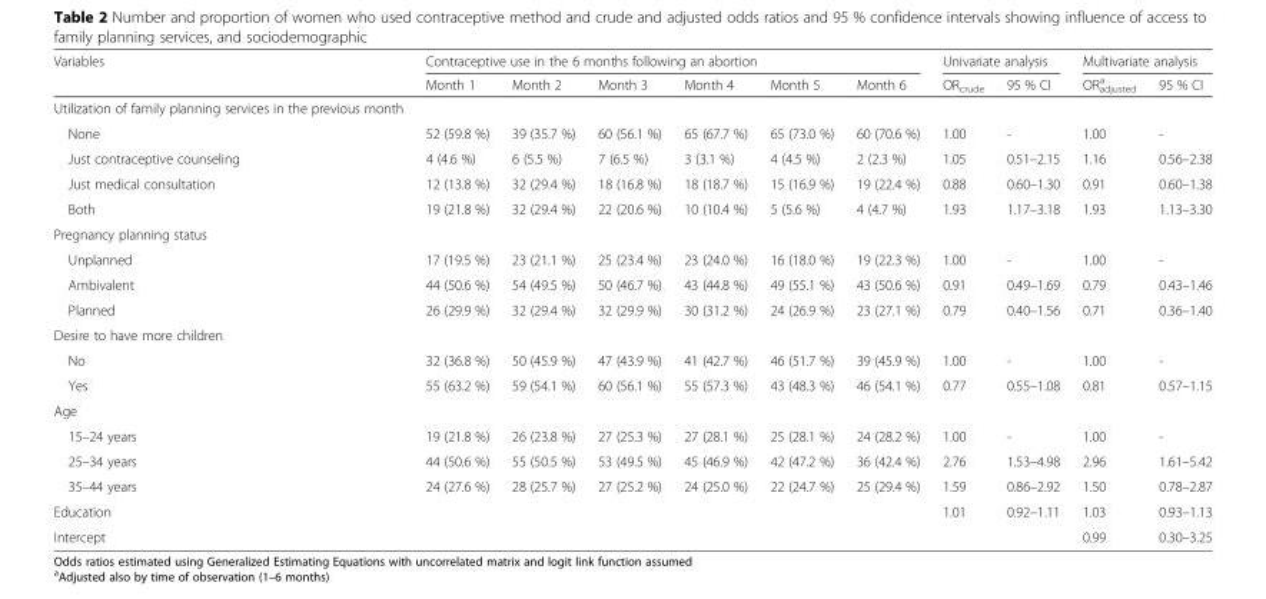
<table><thead><tr><td rowspan="2">Variables</td><td colspan="6">Contraceptive use in the 6 months following an abortion</td><td colspan="2">Univariate analysis</td><td colspan="2">Multivariate analysis</td></tr><tr><td>Month 1</td><td>Month 2</td><td>Month 3</td><td>Month 4</td><td>Month 5</td><td>Month 6</td><td>OR<sub>crude</sub></td><td>95 % CI</td><td>OR<sub>adjusted</sub> <sup>a</sup></td><td>95 % CI</td></tr></thead><tbody><tr><td colspan="11">Utilization of family planning services in the previous month</td></tr><tr><td>None</td><td>52 (59.8 %)</td><td>39 (35.7 %)</td><td>60 (56.1 %)</td><td>65 (67.7 %)</td><td>65 (73.0 %)</td><td>60 (70.6 %)</td><td>1.00</td><td>-</td><td>1.00</td><td>-</td></tr><tr><td>Just contraceptive counseling</td><td>4 (4.6 %)</td><td>6 (5.5 %)</td><td>7 (6.5 %)</td><td>3 (3.1 %)</td><td>4 (4.5 %)</td><td>2 (2.3 %)</td><td>1.05</td><td>0.51–2.15</td><td>1.16</td><td>0.56–2.38</td></tr><tr><td>Just medical consultation</td><td>12 (13.8 %)</td><td>32 (29.4 %)</td><td>18 (16.8 %)</td><td>18 (18.7 %)</td><td>15 (16.9 %)</td><td>19 (22.4 %)</td><td>0.88</td><td>0.60–1.30</td><td>0.91</td><td>0.60–1.38</td></tr><tr><td>Both</td><td>19 (21.8 %)</td><td>32 (29.4 %)</td><td>22 (20.6 %)</td><td>10 (10.4 %)</td><td>5 (5.6 %)</td><td>4 (4.7 %)</td><td>1.93</td><td>1.17–3.18</td><td>1.93</td><td>1.13–3.30</td></tr><tr><td colspan="11">Pregnancy planning status</td></tr><tr><td>Unplanned</td><td>17 (19.5 %)</td><td>23 (21.1 %)</td><td>25 (23.4 %)</td><td>23 (24.0 %)</td><td>16 (18.0 %)</td><td>19 (22.3 %)</td><td>1.00</td><td>-</td><td>1.00</td><td>-</td></tr><tr><td>Ambivalent</td><td>44 (50.6 %)</td><td>54 (49.5 %)</td><td>50 (46.7 %)</td><td>43 (44.8 %)</td><td>49 (55.1 %)</td><td>43 (50.6 %)</td><td>0.91</td><td>0.49–1.69</td><td>0.79</td><td>0.43–1.46</td></tr><tr><td>Planned</td><td>26 (29.9 %)</td><td>32 (29.4 %)</td><td>32 (29.9 %)</td><td>30 (31.2 %)</td><td>24 (26.9 %)</td><td>23 (27.1 %)</td><td>0.79</td><td>0.40–1.56</td><td>0.71</td><td>0.36–1.40</td></tr><tr><td colspan="11">Desire to have more children</td></tr><tr><td>No</td><td>32 (36.8 %)</td><td>50 (45.9 %)</td><td>47 (43.9 %)</td><td>41 (42.7 %)</td><td>46 (51.7 %)</td><td>39 (45.9 %)</td><td>1.00</td><td>-</td><td>1.00</td><td>-</td></tr><tr><td>Yes</td><td>55 (63.2 %)</td><td>59 (54.1 %)</td><td>60 (56.1 %)</td><td>55 (57.3 %)</td><td>43 (48.3 %)</td><td>46 (54.1 %)</td><td>0.77</td><td>0.55–1.08</td><td>0.81</td><td>0.57–1.15</td></tr><tr><td colspan="11">Age</td></tr><tr><td>15–24 years</td><td>19 (21.8 %)</td><td>26 (23.8 %)</td><td>27 (25.3 %)</td><td>27 (28.1 %)</td><td>25 (28.1 %)</td><td>24 (28.2 %)</td><td>1.00</td><td>-</td><td>1.00</td><td>-</td></tr><tr><td>25–34 years</td><td>44 (50.6 %)</td><td>55 (50.5 %)</td><td>53 (49.5 %)</td><td>45 (46.9 %)</td><td>42 (47.2 %)</td><td>36 (42.4 %)</td><td>2.76</td><td>1.53–4.98</td><td>2.96</td><td>1.61–5.42</td></tr><tr><td>35–44 years</td><td>24 (27.6 %)</td><td>28 (25.7 %)</td><td>27 (25.2 %)</td><td>24 (25.0 %)</td><td>22 (24.7 %)</td><td>25 (29.4 %)</td><td>1.59</td><td>0.86–2.92</td><td>1.50</td><td>0.78–2.87</td></tr><tr><td>Education</td><td></td><td></td><td></td><td></td><td></td><td></td><td>1.01</td><td>0.92–1.11</td><td>1.03</td><td>0.93–1.13</td></tr><tr><td>Intercept</td><td></td><td></td><td></td><td></td><td></td><td></td><td></td><td></td><td>0.99</td><td>0.30–3.25</td></tr></tbody></table>